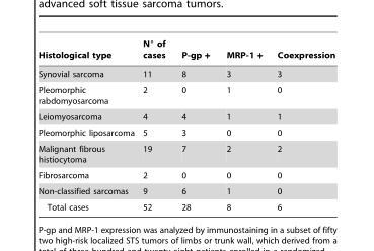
<table><thead><tr><td>Histological type</td><td>N° of cases</td><td>P-gp +</td><td>MRP-1 +</td><td>Coexpression</td></tr></thead><tbody><tr><td>Synovial sarcoma</td><td>11</td><td>8</td><td>3</td><td>3</td></tr><tr><td>Pleomorphic rabdomyosarcoma</td><td>2</td><td>0</td><td>1</td><td>0</td></tr><tr><td>Leiomyosarcoma</td><td>4</td><td>4</td><td>1</td><td>1</td></tr><tr><td>Pleomorphic liposarcoma</td><td>5</td><td>3</td><td>0</td><td>0</td></tr><tr><td>Malignant fibrous histiocytoma</td><td>19</td><td>7</td><td>2</td><td>2</td></tr><tr><td>Fibrosarcoma</td><td>2</td><td>0</td><td>0</td><td>0</td></tr><tr><td>Non-classified sarcomas</td><td>9</td><td>6</td><td>1</td><td>0</td></tr><tr><td>Total cases</td><td>52</td><td>28</td><td>8</td><td>6</td></tr></tbody></table>